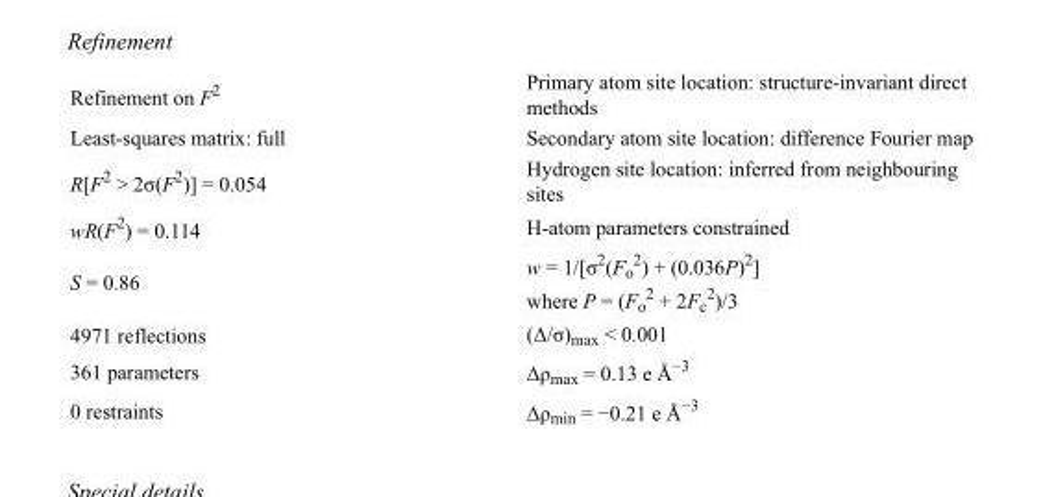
<table><tbody><tr><td>Refinement on F<sup>2</sup></td><td>Primary atom site location: structure-invariant direct methods</td></tr><tr><td>Least-squares matrix: full</td><td>Secondary atom site location: difference Fourier map</td></tr><tr><td>R[F<sup>2</sup> &gt; 2σ(F<sup>2</sup>)] = 0.054</td><td>Hydrogen site location: inferred from neighbouring sites</td></tr><tr><td>wR(F<sup>2</sup>) = 0.114</td><td>H-atom parameters constrained</td></tr><tr><td>S = 0.86</td><td>w = 1/[σ<sup>2</sup>(F<sub>o</sub> <sup>2</sup>) + (0.036P)<sup>2</sup>] where P = (F<sub>o</sub> <sup>2</sup> + 2F<sub>c</sub> <sup>2</sup>)/3</td></tr><tr><td>4971 reflections</td><td>(Δ/σ)<sub>max</sub> &lt; 0.001</td></tr><tr><td>361 parameters</td><td>Δρ<sub>max</sub> = 0.13 e Å<sup>−3</sup></td></tr><tr><td>0 restraints</td><td>Δρ<sub>min</sub> = −0.21 e Å<sup>−3</sup></td></tr></tbody></table>